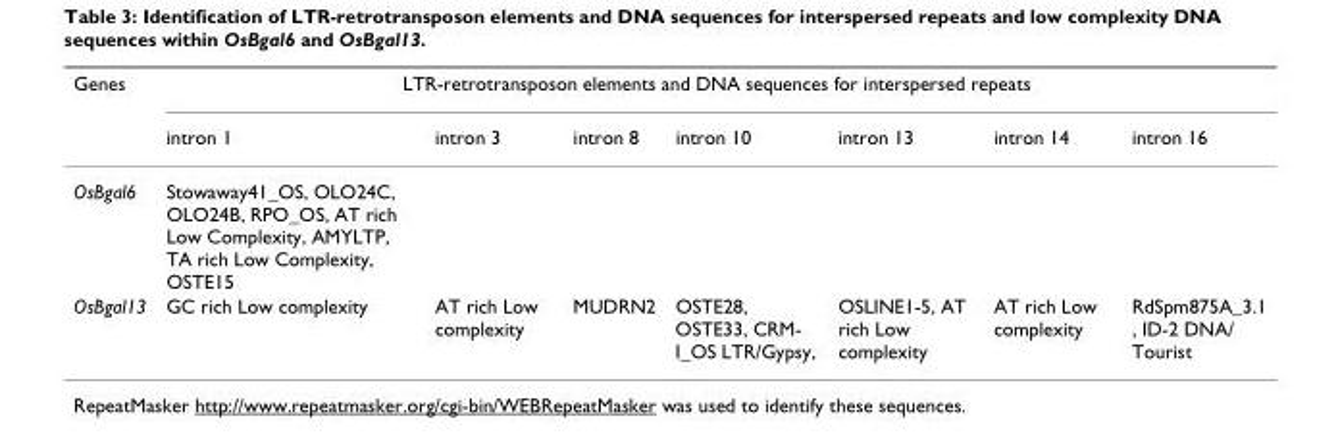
<table><thead><tr><td rowspan="2">Genes</td><td colspan="7">LTR-retrotransposon elements and DNA sequences for interspersed repeats</td></tr><tr><td>intron 1</td><td>intron 3</td><td>intron 8</td><td>intron 10</td><td>intron 13</td><td>intron 14</td><td>intron 16</td></tr></thead><tbody><tr><td>OsBgal6</td><td>Stowaway41_OS, OLO24C, OLO24B, RPO_OS, AT rich Low Complexity, AMYLTP, TA rich Low Complexity, OSTE15</td><td></td><td></td><td></td><td></td><td></td><td></td></tr><tr><td>OsBgal13</td><td>GC rich Low complexity</td><td>AT rich Low complexity</td><td>MUDRN2</td><td>OSTE28, OSTE33, CRM- I_OS LTR/Gypsy,</td><td>OSLINE1-5, AT rich Low complexity</td><td>AT rich Low complexity</td><td>RdSpm875A_3.1 , ID-2 DNA/ Tourist</td></tr></tbody></table>